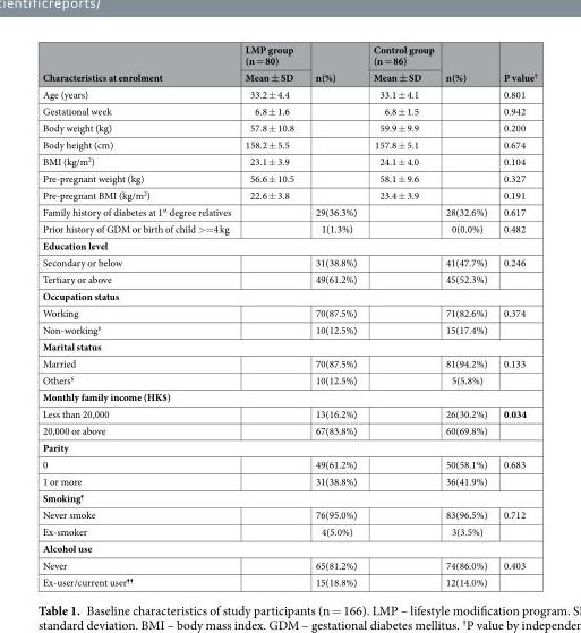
<table><thead><tr><td rowspan="2">Characteristics at enrolment</td><td rowspan="2">LMP group (n = 80) Mean ± SD</td><td rowspan="2">n(%)</td><td rowspan="2">Control group (n = 86) Mean ± SD</td><td rowspan="2">n(%)</td><td rowspan="2">P value<sup>†</sup></td></tr><tr></tr></thead><tbody><tr><td>Age (years)</td><td>33.2 ± 4.4</td><td></td><td>33.1 ± 4.1</td><td></td><td>0.801</td></tr><tr><td>Gestational week</td><td>6.8 ± 1.6</td><td></td><td>6.8 ± 1.5</td><td></td><td>0.942</td></tr><tr><td>Body weight (kg)</td><td>57.8 ± 10.8</td><td></td><td>59.9 ± 9.9</td><td></td><td>0.200</td></tr><tr><td>Body height (cm)</td><td>158.2 ± 5.5</td><td></td><td>157.8 ± 5.1</td><td></td><td>0.674</td></tr><tr><td>BMI (kg/m<sup>2</sup>)</td><td>23.1 ± 3.9</td><td></td><td>24.1 ± 4.0</td><td></td><td>0.104</td></tr><tr><td>Pre-pregnant weight (kg)</td><td>56.6 ± 10.5</td><td></td><td>58.1 ± 9.6</td><td></td><td>0.327</td></tr><tr><td>Pre-pregnant BMI (kg/m<sup>2</sup>)</td><td>22.6 ± 3.8</td><td></td><td>23.4 ± 3.9</td><td></td><td>0.191</td></tr><tr><td>Family history of diabetes at 1<sup>st</sup> degree relatives</td><td></td><td>29(36.3%)</td><td></td><td>28(32.6%)</td><td>0.617</td></tr><tr><td>Prior history of GDM or birth of child &gt;=4 kg</td><td></td><td>1(1.3%)</td><td></td><td>0(0.0%)</td><td>0.482</td></tr><tr><td colspan="6">Education level</td></tr><tr><td>Secondary or below</td><td></td><td>31(38.8%)</td><td></td><td>41(47.7%)</td><td>0.246</td></tr><tr><td>Tertiary or above</td><td></td><td>49(61.2%)</td><td></td><td>45(52.3%)</td><td></td></tr><tr><td colspan="6">Occupation status</td></tr><tr><td>Working</td><td></td><td>70(87.5%)</td><td></td><td>71(82.6%)</td><td>0.374</td></tr><tr><td>Non-working<sup>‡</sup></td><td></td><td>10(12.5%)</td><td></td><td>15(17.4%)</td><td></td></tr><tr><td colspan="6">Marital status</td></tr><tr><td>Married</td><td></td><td>70(87.5%)</td><td></td><td>81(94.2%)</td><td>0.133</td></tr><tr><td>Others<sup>§</sup></td><td></td><td>10(12.5%)</td><td></td><td>5(5.8%)</td><td></td></tr><tr><td colspan="6">Monthly family income (HK$)</td></tr><tr><td>Less than 20,000</td><td></td><td>13(16.2%)</td><td></td><td>26(30.2%)</td><td>0.034</td></tr><tr><td>20,000 or above</td><td></td><td>67(83.8%)</td><td></td><td>60(69.8%)</td><td></td></tr><tr><td colspan="6">Parity</td></tr><tr><td>0</td><td></td><td>49(61.2%)</td><td></td><td>50(58.1%)</td><td>0.683</td></tr><tr><td>1 or more</td><td></td><td>31(38.8%)</td><td></td><td>36(41.9%)</td><td></td></tr><tr><td colspan="6">Smoking<sup>¶</sup></td></tr><tr><td>Never smoke</td><td></td><td>76(95.0%)</td><td></td><td>83(96.5%)</td><td>0.712</td></tr><tr><td>Ex-smoker</td><td></td><td>4(5.0%)</td><td></td><td>3(3.5%)</td><td></td></tr><tr><td colspan="6">Alcohol use</td></tr><tr><td>Never</td><td></td><td>65(81.2%)</td><td></td><td>74(86.0%)</td><td>0.403</td></tr><tr><td>Ex-user/current user<sup>¶¶</sup></td><td></td><td>15(18.8%)</td><td></td><td>12(14.0%)</td><td></td></tr></tbody></table>